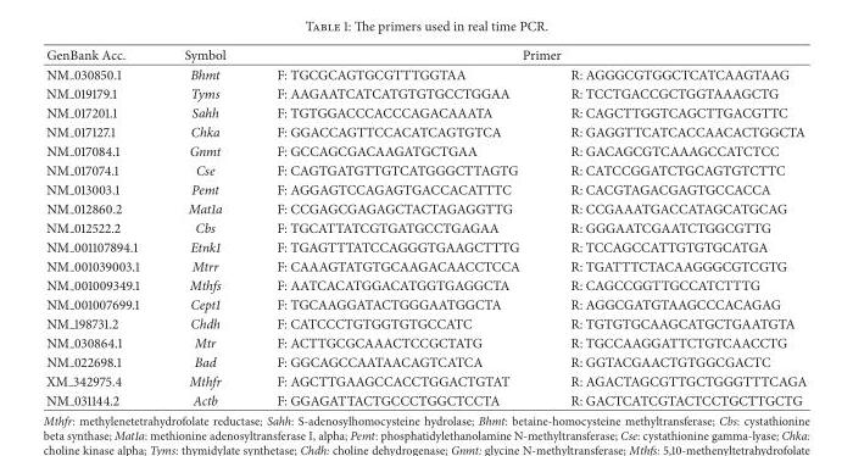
<table><thead><tr><td rowspan="2">GenBank Acc. NM 030850.1</td><td rowspan="2">Symbol Bhmt</td><td colspan="2">Primer</td></tr><tr><td>F: TGCGCAGTGCGTTTGGTAA</td><td>R: AGGGCGTGGCTCATCAAGTAAG</td></tr></thead><tbody><tr><td>NM 019179.1</td><td>Tyms</td><td>F: AAGAATCATCATGTGTGCCTGGAA</td><td>R: TCCTGACCGCTGGTAAAGCTG</td></tr><tr><td>NM 017201.1</td><td>Sahh</td><td>F: TGTGGACCCACCCAGACAAATA</td><td>R: CAGCTTGGTCAGCTTGACGTTC</td></tr><tr><td>NM 017127.1</td><td>Chka</td><td>F: GGACCAGTTCCACATCAGTGTCA</td><td>R: GAGGTTCATCACCAACACTGGCTA</td></tr><tr><td>NM 017084.1</td><td>Gnmt</td><td>F: GCCAGCGACAAGATGCTGAA</td><td>R: GACAGCGTCAAAGCCATCTCC</td></tr><tr><td>NM 017074.1</td><td>Cse</td><td>F: CAGTGATGTTGTCATGGGCTTAGTG</td><td>R: CATCCGGATCTGCAGTGTCTTC</td></tr><tr><td>NM 013003.1</td><td>Pemt</td><td>F: AGGAGTCCAGAGTGACCACATTTC</td><td>R: CACGTAGACGAGTGCCACCA</td></tr><tr><td>NM 012860.2</td><td>Mat1a</td><td>F: CCGAGCGAGAGCTACTAGAGGTTG</td><td>R: CCGAAATGACCATAGCATGCAG</td></tr><tr><td>NM 012522.2</td><td>Cbs</td><td>F: TGCATTATCGTGATGCCTGAGAA</td><td>R: GGGAATCGAATCTGGCGTTG</td></tr><tr><td>NM 001107894.1</td><td>Etnk1</td><td>F: TGAGTTTATCCAGGGTGAAGCTTTG</td><td>R: TCCAGCCATTGTGTGCATGA</td></tr><tr><td>NM 001039003.1</td><td>Mtrr</td><td>F: CAAAGTATGTGCAAGACAACCTCCA</td><td>R: TGATTTCTACAAGGGCGTCGTG</td></tr><tr><td>NM 001009349.1</td><td>Mthfs</td><td>F: AATCACATGGACATGGTGAGGCTA</td><td>R: CAGCCGGTTGCCATCTTTG</td></tr><tr><td>NM 001007699.1</td><td>Cept1</td><td>F: TGCAAGGATACTGGGAATGGCTA</td><td>R: AGGCGATGTAAGCCCACAGAG</td></tr><tr><td>NM 198731.2</td><td>Chdh</td><td>F: CATCCCTGTGGTGTGCCATC</td><td>R: TGTGTGCAAGCATGCTGAATGTA</td></tr><tr><td>NM 030864.1</td><td>Mtr</td><td>F: ACTTGCGCAAACTCCGCTATG</td><td>R: TGCCAAGGATTCTGTCAACCTG</td></tr><tr><td>NM 022698.1</td><td>Bad</td><td>F: GGCAGCCAATAACAGTCATCA</td><td>R: GGTACGAACTGTGGCGACTC</td></tr><tr><td>XM 342975.4</td><td>Mthfr</td><td>F: AGCTTGAAGCCACCTGGACTGTAT</td><td>R: AGACTAGCGTTGCTGGGTTTCAGA</td></tr><tr><td>NM 031144.2</td><td>Actb</td><td>F: GGAGATTACTGCCCTGGCTCCTA</td><td>R: GACTCATCGTACTCCTGCTTGCTG</td></tr></tbody></table>